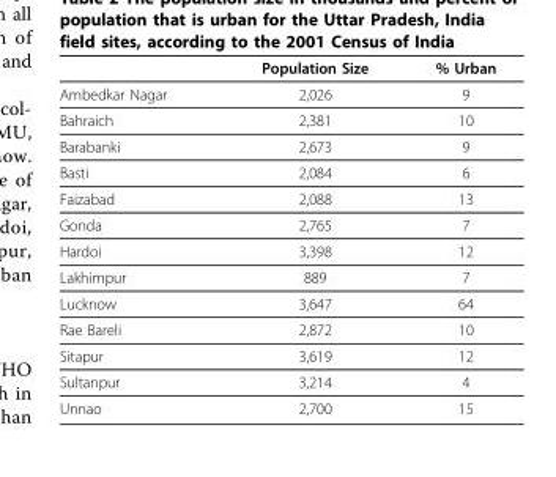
<table><thead><tr><td></td><td>Population Size</td><td>% Urban</td></tr></thead><tbody><tr><td>Ambedkar Nagar</td><td>2,026</td><td>9</td></tr><tr><td>Bahraich</td><td>2,381</td><td>10</td></tr><tr><td>Barabanki</td><td>2,673</td><td>9</td></tr><tr><td>Basti</td><td>2,084</td><td>6</td></tr><tr><td>Faizabad</td><td>2,088</td><td>13</td></tr><tr><td>Gonda</td><td>2,765</td><td>7</td></tr><tr><td>Hardoi</td><td>3,398</td><td>12</td></tr><tr><td>Lakhimpur</td><td>889</td><td>7</td></tr><tr><td>Lucknow</td><td>3,647</td><td>64</td></tr><tr><td>Rae Bareli</td><td>2,872</td><td>10</td></tr><tr><td>Sitapur</td><td>3,619</td><td>12</td></tr><tr><td>Sultanpur</td><td>3,214</td><td>4</td></tr><tr><td>Unnao</td><td>2,700</td><td>15</td></tr></tbody></table>